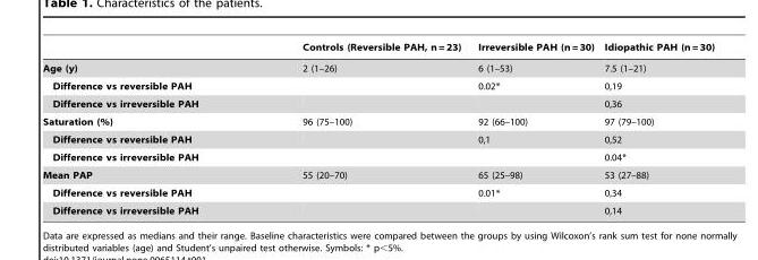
<table><thead><tr><td></td><td>Controls (Reversible PAH, n = 23)</td><td>Irreversible PAH (n = 30)</td><td>Idiopathic PAH (n = 30)</td></tr></thead><tbody><tr><td>Age (y)</td><td>2 (1–26)</td><td>6 (1–53)</td><td>7.5 (1–21)</td></tr><tr><td>Difference vs reversible PAH</td><td></td><td>0.02*</td><td>0,19</td></tr><tr><td>Difference vs irreversible PAH</td><td></td><td></td><td>0,36</td></tr><tr><td>Saturation (%)</td><td>96 (75–100)</td><td>92 (66–100)</td><td>97 (79–100)</td></tr><tr><td>Difference vs reversible PAH</td><td></td><td>0,1</td><td>0,52</td></tr><tr><td>Difference vs irreversible PAH</td><td></td><td></td><td>0.04*</td></tr><tr><td>Mean PAP</td><td>55 (20–70)</td><td>65 (25–98)</td><td>53 (27–88)</td></tr><tr><td>Difference vs reversible PAH</td><td></td><td>0.01*</td><td>0,34</td></tr><tr><td>Difference vs irreversible PAH</td><td></td><td></td><td>0,14</td></tr></tbody></table>